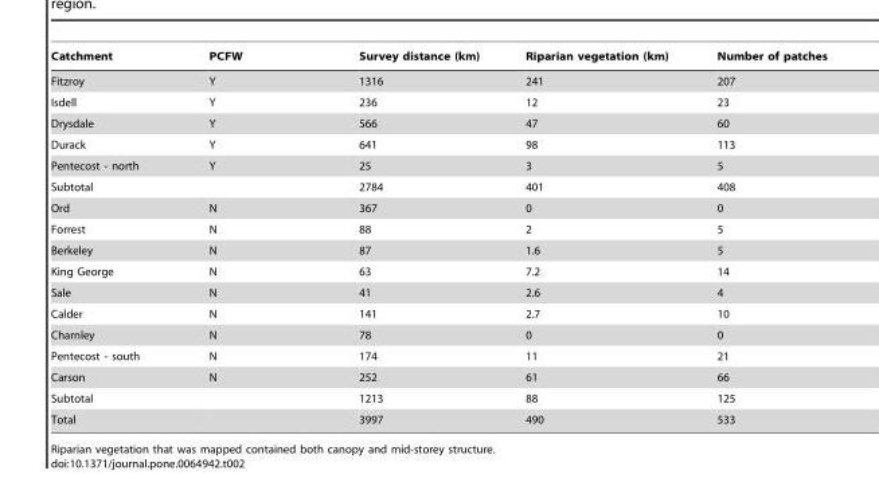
<table><thead><tr><td>Catchment</td><td>PCFW</td><td>Survey distance (km)</td><td>Riparian vegetation (km)</td><td>Number of patches</td></tr></thead><tbody><tr><td>Fitzroy</td><td>Y</td><td>1316</td><td>241</td><td>207</td></tr><tr><td>Isdell</td><td>Y</td><td>236</td><td>12</td><td>23</td></tr><tr><td>Drysdale</td><td>Y</td><td>566</td><td>47</td><td>60</td></tr><tr><td>Durack</td><td>Y</td><td>641</td><td>98</td><td>113</td></tr><tr><td>Pentecost - north</td><td>Y</td><td>25</td><td>3</td><td>5</td></tr><tr><td>Subtotal</td><td></td><td>2784</td><td>401</td><td>408</td></tr><tr><td>Ord</td><td>N</td><td>367</td><td>0</td><td>0</td></tr><tr><td>Forrest</td><td>N</td><td>88</td><td>2</td><td>5</td></tr><tr><td>Berkeley</td><td>N</td><td>87</td><td>1.6</td><td>5</td></tr><tr><td>King George</td><td>N</td><td>63</td><td>7.2</td><td>14</td></tr><tr><td>Sale</td><td>N</td><td>41</td><td>2.6</td><td>4</td></tr><tr><td>Calder</td><td>N</td><td>141</td><td>2.7</td><td>10</td></tr><tr><td>Charnley</td><td>N</td><td>78</td><td>0</td><td>0</td></tr><tr><td>Pentecost - south</td><td>N</td><td>174</td><td>11</td><td>21</td></tr><tr><td>Carson</td><td>N</td><td>252</td><td>61</td><td>66</td></tr><tr><td>Subtotal</td><td></td><td>1213</td><td>88</td><td>125</td></tr><tr><td>Total</td><td></td><td>3997</td><td>490</td><td>533</td></tr></tbody></table>